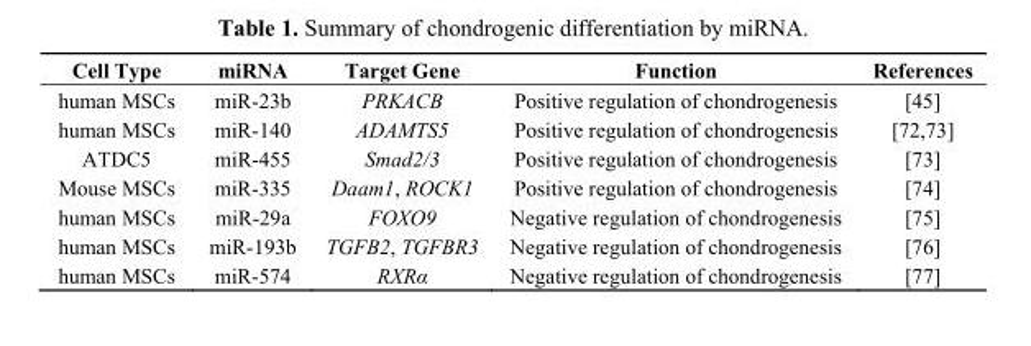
<table><thead><tr><td>Cell Type</td><td>miRNA</td><td>Target Gene</td><td>Function</td><td>References</td></tr></thead><tbody><tr><td>human MSCs</td><td>miR-23b</td><td>PRKACB</td><td>Positive regulation of chondrogenesis</td><td>[45]</td></tr><tr><td>human MSCs</td><td>miR-140</td><td>ADAMTS5</td><td>Positive regulation of chondrogenesis</td><td>[72,73]</td></tr><tr><td>ATDC5</td><td>miR-455</td><td>Smad2/3</td><td>Positive regulation of chondrogenesis</td><td>[73]</td></tr><tr><td>Mouse MSCs</td><td>miR-335</td><td>Daam1, ROCK1</td><td>Positive regulation of chondrogenesis</td><td>[74]</td></tr><tr><td>human MSCs</td><td>miR-29a</td><td>FOXO9</td><td>Negative regulation of chondrogenesis</td><td>[75]</td></tr><tr><td>human MSCs</td><td>miR-193b</td><td>TGFB2, TGFBR3</td><td>Negative regulation of chondrogenesis</td><td>[76]</td></tr><tr><td>human MSCs</td><td>miR-574</td><td>RXRα</td><td>Negative regulation of chondrogenesis</td><td>[77]</td></tr></tbody></table>